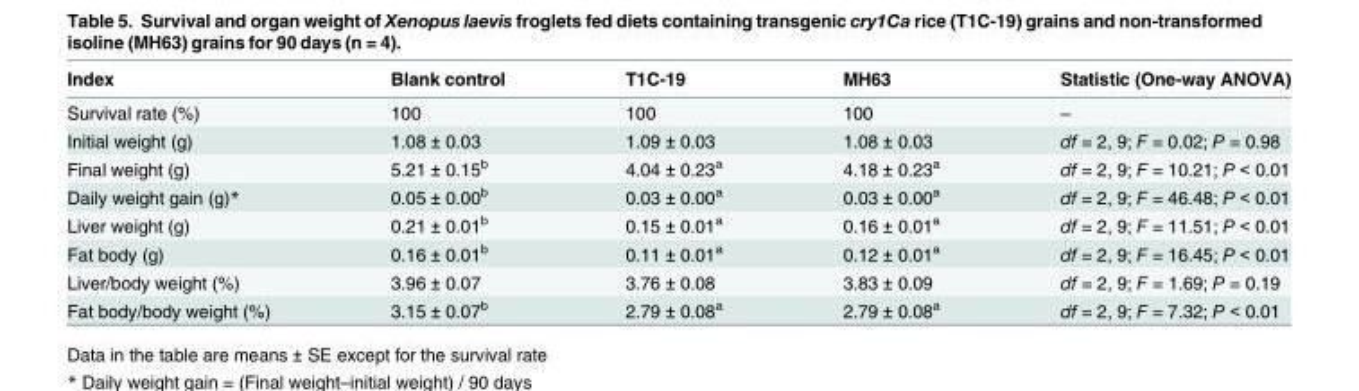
<table><thead><tr><td>Index</td><td>Blank control</td><td>T1C-19</td><td>MH63</td><td>Statistic (One-way ANOVA)</td></tr></thead><tbody><tr><td>Survival rate (%)</td><td>100</td><td>100</td><td>100</td><td>–</td></tr><tr><td>Initial weight (g)</td><td>1.08 ± 0.03</td><td>1.09 ± 0.03</td><td>1.08 ± 0.03</td><td>df = 2, 9; F = 0.02; P = 0.98</td></tr><tr><td>Final weight (g)</td><td>5.21 ± 0.15<sup>b</sup></td><td>4.04 ± 0.23<sup>a</sup></td><td>4.18 ± 0.23<sup>a</sup></td><td>df = 2, 9; F = 10.21; P &lt; 0.01</td></tr><tr><td>Daily weight gain (g)*</td><td>0.05 ± 0.00<sup>b</sup></td><td>0.03 ± 0.00<sup>a</sup></td><td>0.03 ± 0.00<sup>a</sup></td><td>df = 2, 9; F = 46.48; P &lt; 0.01</td></tr><tr><td>Liver weight (g)</td><td>0.21 ± 0.01<sup>b</sup></td><td>0.15 ± 0.01<sup>a</sup></td><td>0.16 ± 0.01<sup>a</sup></td><td>df = 2, 9; F = 11.51; P &lt; 0.01</td></tr><tr><td>Fat body (g)</td><td>0.16 ± 0.01<sup>b</sup></td><td>0.11 ± 0.01<sup>a</sup></td><td>0.12 ± 0.01<sup>a</sup></td><td>df = 2, 9; F = 16.45; P &lt; 0.01</td></tr><tr><td>Liver/body weight (%)</td><td>3.96 ± 0.07</td><td>3.76 ± 0.08</td><td>3.83 ± 0.09</td><td>df = 2, 9; F = 1.69; P = 0.19</td></tr><tr><td>Fat body/body weight (%)</td><td>3.15 ± 0.07<sup>b</sup></td><td>2.79 ± 0.08<sup>a</sup></td><td>2.79 ± 0.08<sup>a</sup></td><td>df = 2, 9; F = 7.32; P &lt; 0.01</td></tr></tbody></table>